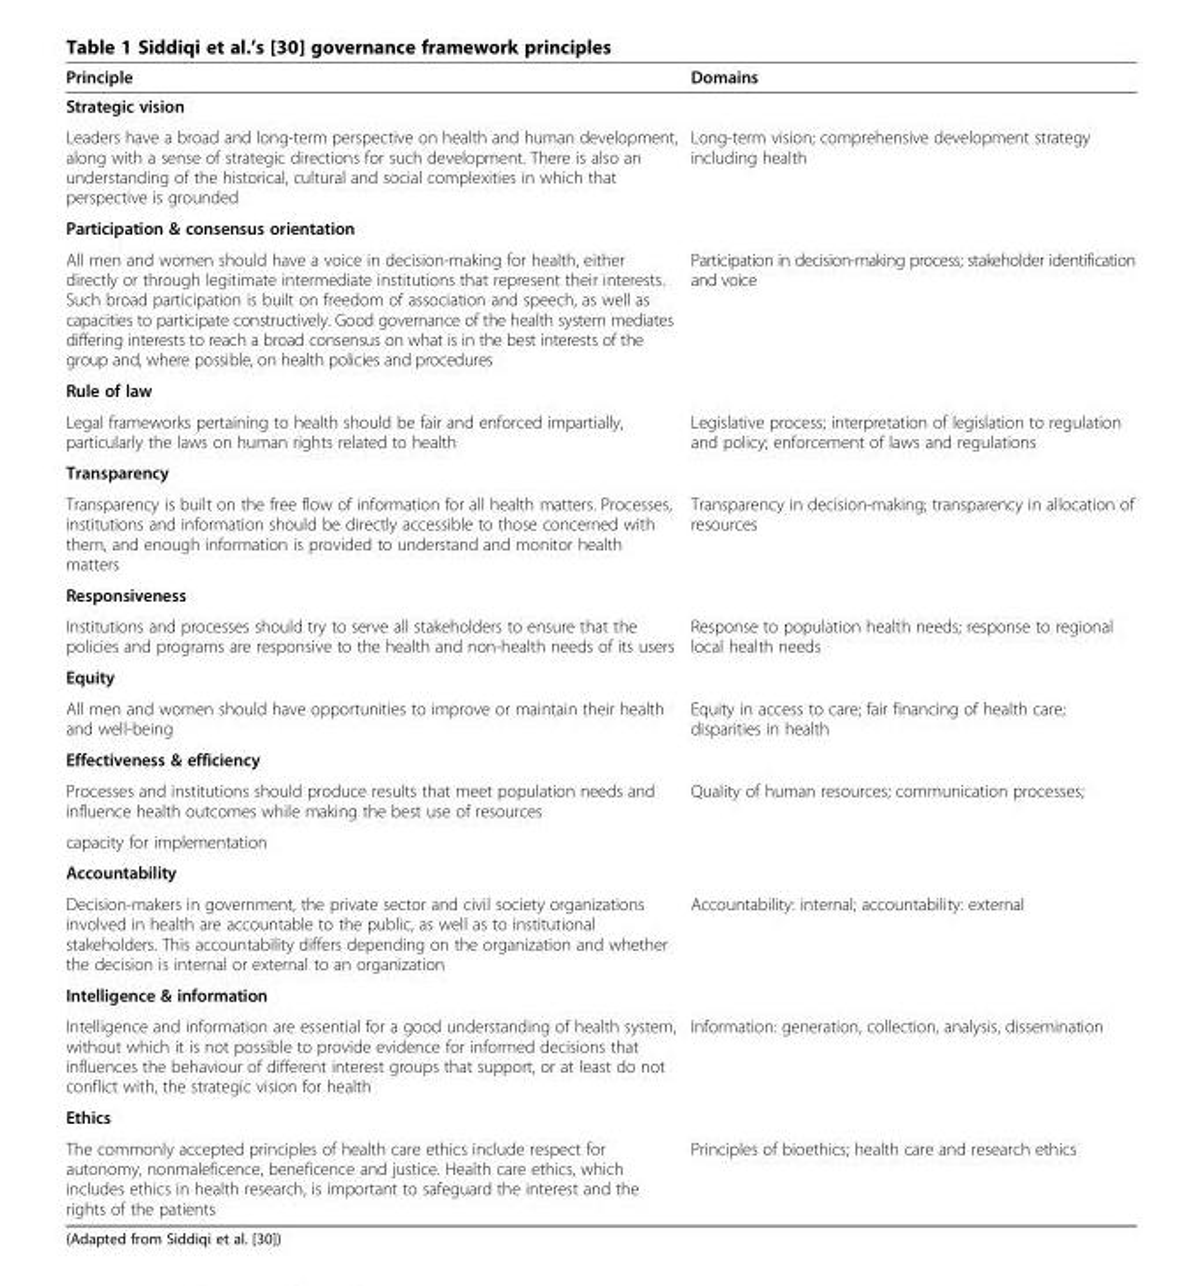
<table><thead><tr><td>Principle</td><td>Domains</td></tr></thead><tbody><tr><td colspan="2">Strategic vision</td></tr><tr><td>Leaders have a broad and long-term perspective on health and human development, along with a sense of strategic directions for such development. There is also an understanding of the historical, cultural and social complexities in which that perspective is grounded</td><td>Long-term vision; comprehensive development strategy including health</td></tr><tr><td colspan="2">Participation &amp; consensus orientation</td></tr><tr><td>All men and women should have a voice in decision-making for health, either directly or through legitimate intermediate institutions that represent their interests. Such broad participation is built on freedom of association and speech, as well as capacities to participate constructively. Good governance of the health system mediates differing interests to reach a broad consensus on what is in the best interests of the group and, where possible, on health policies and procedures</td><td>Participation in decision-making process; stakeholder identification and voice</td></tr><tr><td colspan="2">Rule of law</td></tr><tr><td>Legal frameworks pertaining to health should be fair and enforced impartially, particularly the laws on human rights related to health</td><td>Legislative process; interpretation of legislation to regulation and policy; enforcement of laws and regulations</td></tr><tr><td colspan="2">Transparency</td></tr><tr><td>Transparency is built on the free flow of information for all health matters. Processes, institutions and information should be directly accessible to those concerned with them, and enough information is provided to understand and monitor health matters</td><td>Transparency in decision-making; transparency in allocation of resources</td></tr><tr><td colspan="2">Responsiveness</td></tr><tr><td>Institutions and processes should try to serve all stakeholders to ensure that the policies and programs are responsive to the health and non-health needs of its users</td><td>Response to population health needs; response to regional local health needs</td></tr><tr><td colspan="2">Equity</td></tr><tr><td>All men and women should have opportunities to improve or maintain their health and well-being</td><td>Equity in access to care; fair financing of health care; disparities in health</td></tr><tr><td colspan="2">Effectiveness &amp; efficiency</td></tr><tr><td>Processes and institutions should produce results that meet population needs and influence health outcomes while making the best use of resources</td><td>Quality of human resources; communication processes;</td></tr><tr><td colspan="2">capacity for implementation</td></tr><tr><td colspan="2">Accountability</td></tr><tr><td>Decision-makers in government, the private sector and civil society organizations involved in health are accountable to the public, as well as to institutional stakeholders. This accountability differs depending on the organization and whether the decision is internal or external to an organization</td><td>Accountability: internal; accountability: external</td></tr><tr><td colspan="2">Intelligence &amp; information</td></tr><tr><td>Intelligence and information are essential for a good understanding of health system, without which it is not possible to provide evidence for informed decisions that influences the behaviour of different interest groups that support, or at least do not conflict with, the strategic vision for health</td><td>Information: generation, collection, analysis, dissemination</td></tr><tr><td colspan="2">Ethics</td></tr><tr><td>The commonly accepted principles of health care ethics include respect for autonomy, nonmaleficence, beneficence and justice. Health care ethics, which includes ethics in health research, is important to safeguard the interest and the rights of the patients</td><td>Principles of bioethics; health care and research ethics</td></tr></tbody></table>